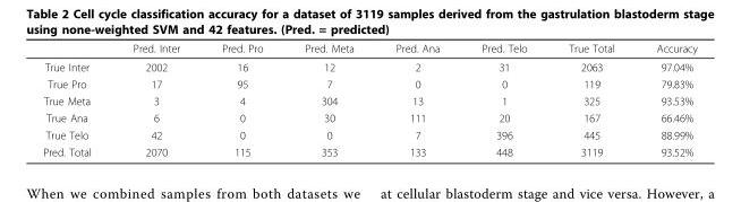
<table><thead><tr><td></td><td>Pred. Inter</td><td>Pred. Pro</td><td>Pred. Meta</td><td>Pred. Ana</td><td>Pred. Telo</td><td>True Total</td><td>Accuracy</td></tr></thead><tbody><tr><td>True Inter</td><td>2002</td><td>16</td><td>12</td><td>2</td><td>31</td><td>2063</td><td>97.04%</td></tr><tr><td>True Pro</td><td>17</td><td>95</td><td>7</td><td>0</td><td>0</td><td>119</td><td>79.83%</td></tr><tr><td>True Meta</td><td>3</td><td>4</td><td>304</td><td>13</td><td>1</td><td>325</td><td>93.53%</td></tr><tr><td>True Ana</td><td>6</td><td>0</td><td>30</td><td>111</td><td>20</td><td>167</td><td>66.46%</td></tr><tr><td>True Telo</td><td>42</td><td>0</td><td>0</td><td>7</td><td>396</td><td>445</td><td>88.99%</td></tr><tr><td>Pred. Total</td><td>2070</td><td>115</td><td>353</td><td>133</td><td>448</td><td>3119</td><td>93.52%</td></tr></tbody></table>